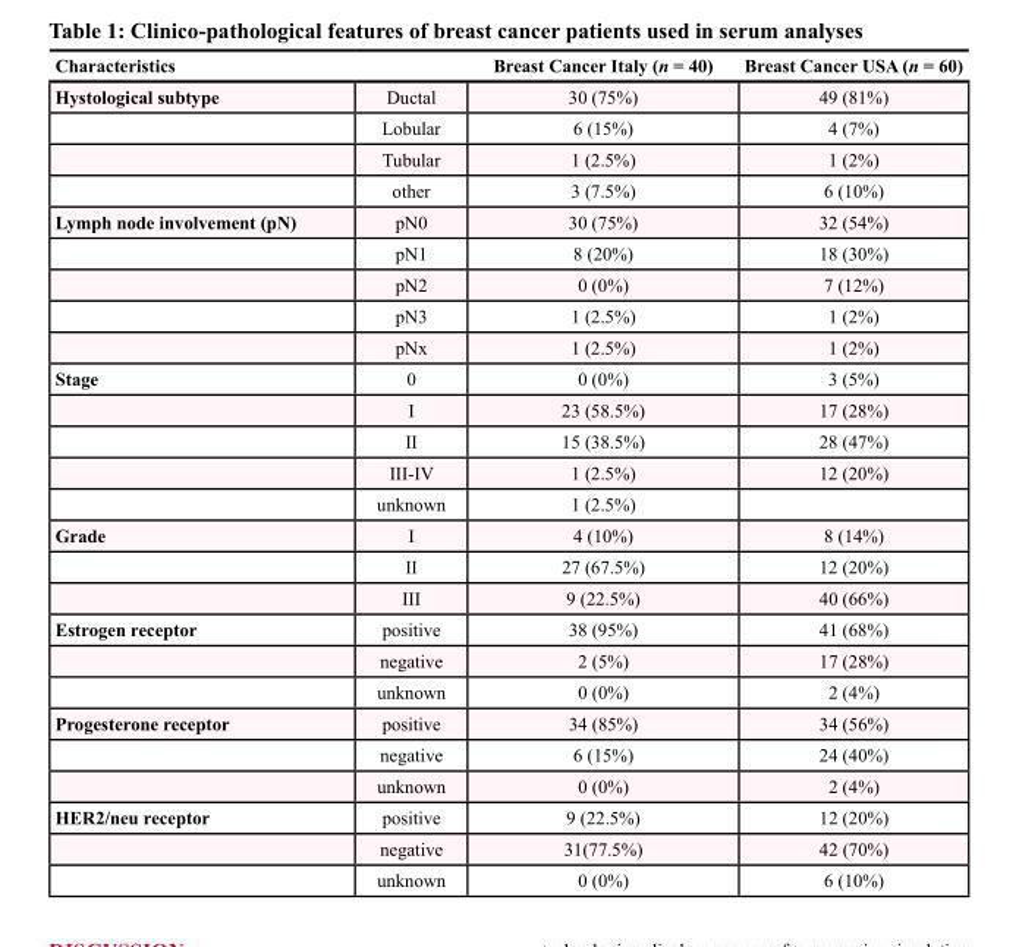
<table><thead><tr><td colspan="2">Characteristics</td><td rowspan="2">Breast Cancer Italy (n = 40) 30 (75%)</td><td rowspan="2">Breast Cancer USA (n = 60) 49 (81%)</td></tr><tr><td>Hystological subtype</td><td>Ductal</td></tr></thead><tbody><tr><td></td><td>Lobular</td><td>6 (15%)</td><td>4 (7%)</td></tr><tr><td></td><td>Tubular</td><td>1 (2.5%)</td><td>1 (2%)</td></tr><tr><td></td><td>other</td><td>3 (7.5%)</td><td>6 (10%)</td></tr><tr><td rowspan="5">Lymph node involvement (pN)</td><td>pN0</td><td>30 (75%)</td><td>32 (54%)</td></tr><tr><td>pN1</td><td>8 (20%)</td><td>18 (30%)</td></tr><tr><td>pN2</td><td>0 (0%)</td><td>7 (12%)</td></tr><tr><td>pN3</td><td>1 (2.5%)</td><td>1 (2%)</td></tr><tr><td>pNx</td><td>1 (2.5%)</td><td>1 (2%)</td></tr><tr><td rowspan="5">Stage</td><td>0</td><td>0 (0%)</td><td>3 (5%)</td></tr><tr><td>I</td><td>23 (58.5%)</td><td>17 (28%)</td></tr><tr><td>II</td><td>15 (38.5%)</td><td>28 (47%)</td></tr><tr><td>III-IV</td><td>1 (2.5%)</td><td>12 (20%)</td></tr><tr><td>unknown</td><td>1 (2.5%)</td><td></td></tr><tr><td rowspan="3">Grade</td><td>I</td><td>4 (10%)</td><td>8 (14%)</td></tr><tr><td>II</td><td>27 (67.5%)</td><td>12 (20%)</td></tr><tr><td>III</td><td>9 (22.5%)</td><td>40 (66%)</td></tr><tr><td rowspan="3">Estrogen receptor</td><td>positive</td><td>38 (95%)</td><td>41 (68%)</td></tr><tr><td>negative</td><td>2 (5%)</td><td>17 (28%)</td></tr><tr><td>unknown</td><td>0 (0%)</td><td>2 (4%)</td></tr><tr><td rowspan="3">Progesterone receptor</td><td>positive</td><td>34 (85%)</td><td>34 (56%)</td></tr><tr><td>negative</td><td>6 (15%)</td><td>24 (40%)</td></tr><tr><td>unknown</td><td>0 (0%)</td><td>2 (4%)</td></tr><tr><td rowspan="3">HER2/neu receptor</td><td>positive</td><td>9 (22.5%)</td><td>12 (20%)</td></tr><tr><td>negative</td><td>31(77.5%)</td><td>42 (70%)</td></tr><tr><td>unknown</td><td>0 (0%)</td><td>6 (10%)</td></tr></tbody></table>